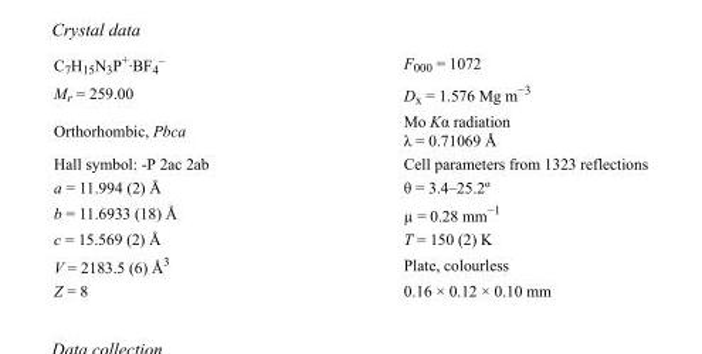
<table><tbody><tr><td>C<sub>7</sub>H<sub>15</sub>N<sub>3</sub>P<sup>+</sup>·BF<sub>4</sub> <sup>–</sup></td><td>F<sub>000</sub> = 1072</td></tr><tr><td>M<sub>r</sub> = 259.00</td><td>D<sub>x</sub> = 1.576 Mg m<sup>−3</sup></td></tr><tr><td>Orthorhombic, Pbca</td><td>Mo Kα radiation λ = 0.71069 Å</td></tr><tr><td>Hall symbol: -P 2ac 2ab</td><td>Cell parameters from 1323 reflections</td></tr><tr><td>a = 11.994 (2) Å</td><td>θ = 3.4–25.2º</td></tr><tr><td>b = 11.6933 (18) Å</td><td>µ = 0.28 mm<sup>−1</sup></td></tr><tr><td>c = 15.569 (2) Å</td><td>T = 150 (2) K</td></tr><tr><td>V = 2183.5 (6) Å<sup>3</sup></td><td>Plate, colourless</td></tr><tr><td>Z = 8</td><td>0.16 × 0.12 × 0.10 mm</td></tr></tbody></table>